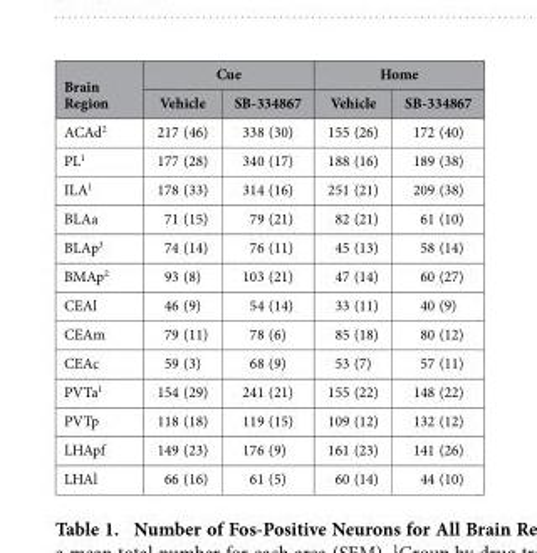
<table><thead><tr><td rowspan="2">Brain Region</td><td colspan="2">Cue</td><td colspan="2">Home</td></tr><tr><td>Vehicle</td><td>SB-334867</td><td>Vehicle</td><td>SB-334867</td></tr></thead><tbody><tr><td>ACAd<sup>2</sup></td><td>217 (46)</td><td>338 (30)</td><td>155 (26)</td><td>172 (40)</td></tr><tr><td>PL<sup>1</sup></td><td>177 (28)</td><td>340 (17)</td><td>188 (16)</td><td>189 (38)</td></tr><tr><td>ILA<sup>1</sup></td><td>178 (33)</td><td>314 (16)</td><td>251 (21)</td><td>209 (38)</td></tr><tr><td>BLAa</td><td>71 (15)</td><td>79 (21)</td><td>82 (21)</td><td>61 (10)</td></tr><tr><td>BLAp<sup>3</sup></td><td>74 (14)</td><td>76 (11)</td><td>45 (13)</td><td>58 (14)</td></tr><tr><td>BMAp<sup>2</sup></td><td>93 (8)</td><td>103 (21)</td><td>47 (14)</td><td>60 (27)</td></tr><tr><td>CEAl</td><td>46 (9)</td><td>54 (14)</td><td>33 (11)</td><td>40 (9)</td></tr><tr><td>CEAm</td><td>79 (11)</td><td>78 (6)</td><td>85 (18)</td><td>80 (12)</td></tr><tr><td>CEAc</td><td>59 (3)</td><td>68 (9)</td><td>53 (7)</td><td>57 (11)</td></tr><tr><td>PVTa<sup>1</sup></td><td>154 (29)</td><td>241 (21)</td><td>155 (22)</td><td>148 (22)</td></tr><tr><td>PVTp</td><td>118 (18)</td><td>119 (15)</td><td>109 (12)</td><td>132 (12)</td></tr><tr><td>LHApf</td><td>149 (23)</td><td>176 (9)</td><td>161 (23)</td><td>141 (26)</td></tr><tr><td>LHAl</td><td>66 (16)</td><td>61 (5)</td><td>60 (14)</td><td>44 (10)</td></tr></tbody></table>